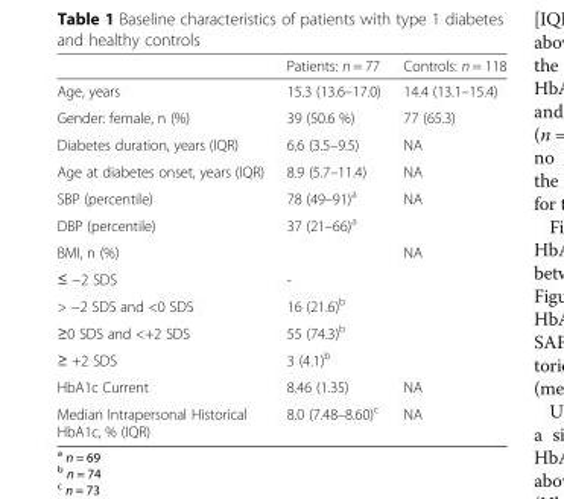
<table><thead><tr><td></td><td>Patients: n = 77</td><td>Controls: n = 118</td></tr></thead><tbody><tr><td>Age, years</td><td>15.3 (13.6–17.0)</td><td>14.4 (13.1–15.4)</td></tr><tr><td>Gender: female, n (%)</td><td>39 (50.6 %)</td><td>77 (65.3)</td></tr><tr><td>Diabetes duration, years (IQR)</td><td>6.6 (3.5–9.5)</td><td>NA</td></tr><tr><td>Age at diabetes onset, years (IQR)</td><td>8.9 (5.7–11.4)</td><td>NA</td></tr><tr><td>SBP (percentile)</td><td>78 (49–91)<sup>a</sup></td><td>NA</td></tr><tr><td>DBP (percentile)</td><td>37 (21–66)<sup>a</sup></td><td></td></tr><tr><td>BMI, n (%)</td><td></td><td>NA</td></tr><tr><td>≤ −2 SDS</td><td>-</td><td rowspan="4"></td></tr><tr><td>&gt; −2 SDS and &lt;0 SDS</td><td>16 (21.6)<sup>b</sup></td></tr><tr><td>≥0 SDS and &lt;+2 SDS</td><td>55 (74.3)<sup>b</sup></td></tr><tr><td>≥ +2 SDS</td><td>3 (4.1)<sup>b</sup></td></tr><tr><td>HbA1c Current</td><td>8.46 (1.35)</td><td>NA</td></tr><tr><td>Median Intrapersonal Historical HbA1c, % (IQR)</td><td>8.0 (7.48–8.60)<sup>c</sup></td><td>NA</td></tr></tbody></table>